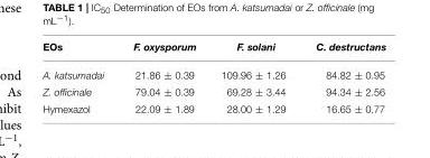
<table><thead><tr><td>EOs</td><td>F. oxysporum</td><td>F. solani</td><td>C. destructans</td></tr></thead><tbody><tr><td>A. katsumadai</td><td>21.86 ± 0.39</td><td>109.96 ± 1.26</td><td>84.82 ± 0.95</td></tr><tr><td>Z. officinale</td><td>79.04 ± 0.39</td><td>69.28 ± 3.44</td><td>94.34 ± 2.56</td></tr><tr><td>Hymexazol</td><td>22.09 ± 1.89</td><td>28.00 ± 1.29</td><td>16.65 ± 0.77</td></tr></tbody></table>